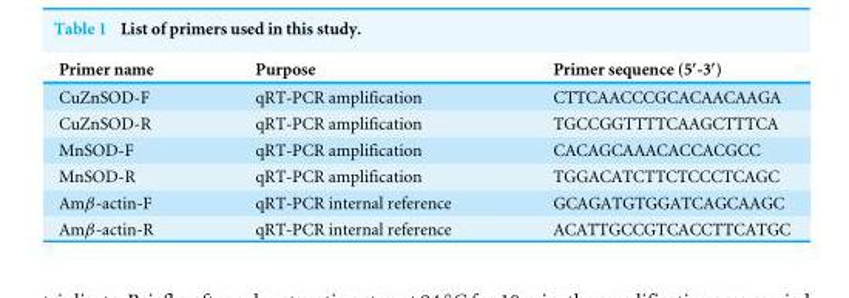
<table><thead><tr><td>Primer name</td><td>Purpose</td><td>Primer sequence (5′-3′)</td></tr></thead><tbody><tr><td>CuZnSOD-F</td><td>qRT-PCR amplification</td><td>CTTCAACCCGCACAACAAGA</td></tr><tr><td>CuZnSOD-R</td><td>qRT-PCR amplification</td><td>TGCCGGTTTTCAAGCTTTCA</td></tr><tr><td>MnSOD-F</td><td>qRT-PCR amplification</td><td>CACAGCAAACACCACGCC</td></tr><tr><td>MnSOD-R</td><td>qRT-PCR amplification</td><td>TGGACATCTTCTCCCTCAGC</td></tr><tr><td>Amβ-actin-F</td><td>qRT-PCR internal reference</td><td>GCAGATGTGGATCAGCAAGC</td></tr><tr><td>Amβ-actin-R</td><td>qRT-PCR internal reference</td><td>ACATTGCCGTCACCTTCATGC</td></tr></tbody></table>